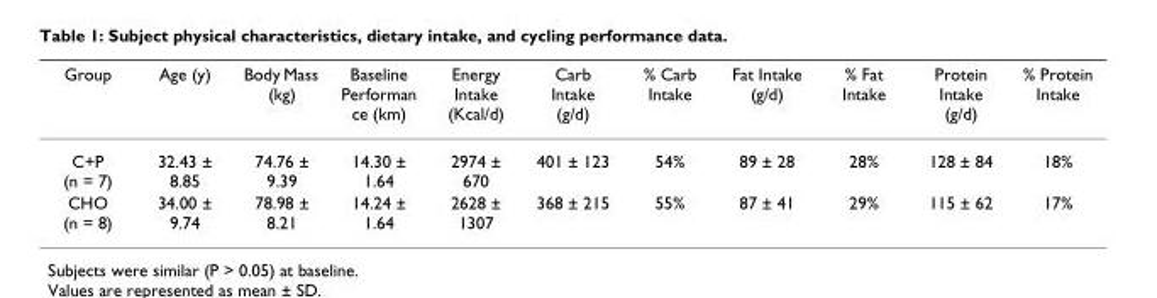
<table><thead><tr><td>Group</td><td>Age (y)</td><td>Body Mass (kg)</td><td>Baseline Performan ce (km)</td><td>Energy Intake (Kcal/d)</td><td>Carb Intake (g/d)</td><td>% Carb Intake</td><td>Fat Intake (g/d)</td><td>% Fat Intake</td><td>Protein Intake (g/d)</td><td>% Protein Intake</td></tr></thead><tbody><tr><td>C+P (n = 7)</td><td>32.43 ± 8.85</td><td>74.76 ± 9.39</td><td>14.30 ± 1.64</td><td>2974 ± 670</td><td>401 ± 123</td><td>54%</td><td>89 ± 28</td><td>28%</td><td>128 ± 84</td><td>18%</td></tr><tr><td>CHO (n = 8)</td><td>34.00 ± 9.74</td><td>78.98 ± 8.21</td><td>14.24 ± 1.64</td><td>2628 ± 1307</td><td>368 ± 215</td><td>55%</td><td>87 ± 41</td><td>29%</td><td>115 ± 62</td><td>17%</td></tr></tbody></table>